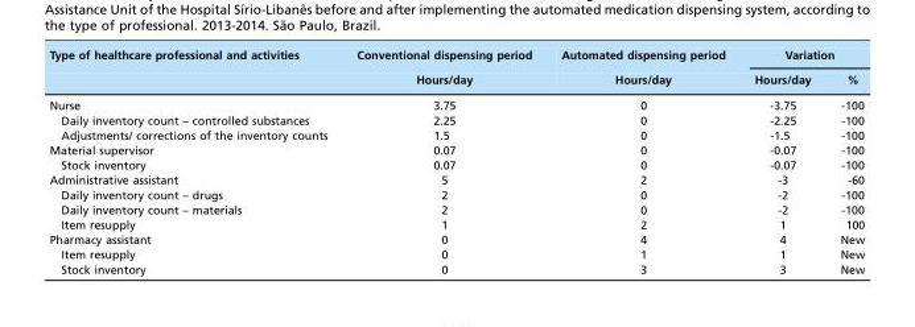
<table><thead><tr><td rowspan="2">Type of healthcare professional and activities</td><td rowspan="2">Conventional dispensing period Hours/day</td><td rowspan="2">Automated dispensing period Hours/day</td><td colspan="2">Variation</td></tr><tr><td>Hours/day</td><td>%</td></tr></thead><tbody><tr><td>Nurse</td><td>3.75</td><td>0</td><td>-3.75</td><td>-100</td></tr><tr><td>Daily inventory count – controlled substances</td><td>2.25</td><td>0</td><td>-2.25</td><td>-100</td></tr><tr><td>Adjustments/ corrections of the inventory counts</td><td>1.5</td><td>0</td><td>-1.5</td><td>-100</td></tr><tr><td>Material supervisor</td><td>0.07</td><td>0</td><td>-0.07</td><td>-100</td></tr><tr><td>Stock inventory</td><td>0.07</td><td>0</td><td>-0.07</td><td>-100</td></tr><tr><td>Administrative assistant</td><td>5</td><td>2</td><td>-3</td><td>-60</td></tr><tr><td>Daily inventory count – drugs</td><td>2</td><td>0</td><td>-2</td><td>-100</td></tr><tr><td>Daily inventory count – materials</td><td>2</td><td>0</td><td>-2</td><td>-100</td></tr><tr><td>Item resupply</td><td>1</td><td>2</td><td>1</td><td>100</td></tr><tr><td>Pharmacy assistant</td><td>0</td><td>4</td><td>4</td><td>New</td></tr><tr><td>Item resupply</td><td>0</td><td>1</td><td>1</td><td>New</td></tr><tr><td>Stock inventory</td><td>0</td><td>3</td><td>3</td><td>New</td></tr></tbody></table>